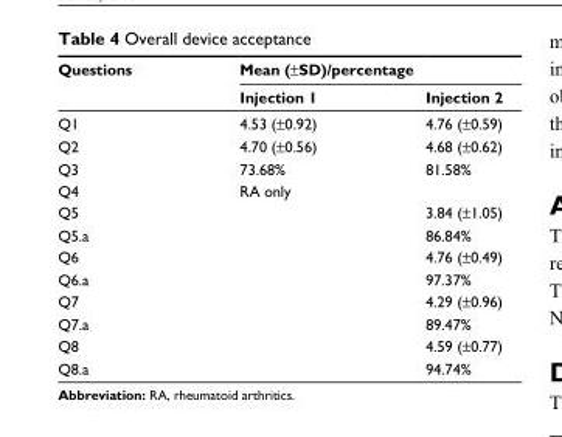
<table><thead><tr><td rowspan="2">Questions</td><td colspan="2">Mean (±SD)/percentage</td></tr><tr><td>Injection 1</td><td>Injection 2</td></tr></thead><tbody><tr><td>Q1</td><td>4.53 (±0.92)</td><td>4.76 (±0.59)</td></tr><tr><td>Q2</td><td>4.70 (±0.56)</td><td>4.68 (±0.62)</td></tr><tr><td>Q3</td><td>73.68%</td><td>81.58%</td></tr><tr><td>Q4</td><td>rA only</td><td></td></tr><tr><td>Q5</td><td></td><td>3.84 (±1.05)</td></tr><tr><td>Q5.a</td><td></td><td>86.84%</td></tr><tr><td>Q6</td><td></td><td>4.76 (±0.49)</td></tr><tr><td>Q6.a</td><td></td><td>97.37%</td></tr><tr><td>Q7</td><td></td><td>4.29 (±0.96)</td></tr><tr><td>Q7.a</td><td></td><td>89.47%</td></tr><tr><td>Q8</td><td></td><td>4.59 (±0.77)</td></tr><tr><td>Q8.a</td><td></td><td>94.74%</td></tr></tbody></table>